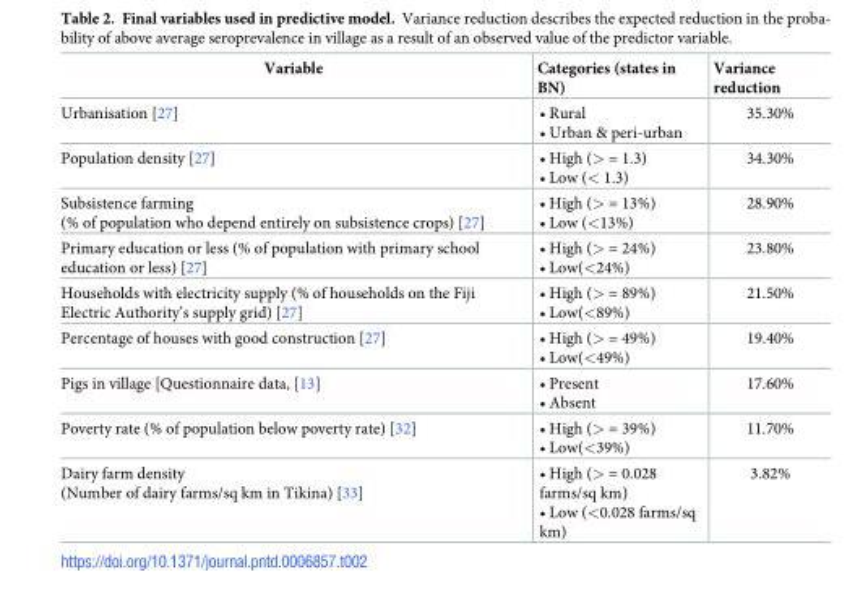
<table><thead><tr><td>Variable</td><td>Categories (states in BN)</td><td>Variance reduction</td></tr></thead><tbody><tr><td>Urbanisation [27]</td><td>• Rural • Urban &amp; peri-urban</td><td>35.30%</td></tr><tr><td>Population density [27]</td><td>• High (&gt; = 1.3) • Low (&lt; 1.3)</td><td>34.30%</td></tr><tr><td>Subsistence farming (% of population who depend entirely on subsistence crops) [27]</td><td>• High (&gt; = 13%) • Low (&lt;13%)</td><td>28.90%</td></tr><tr><td>Primary education or less (% of population with primary school education or less) [27]</td><td>• High (&gt; = 24%) • Low(&lt;24%)</td><td>23.80%</td></tr><tr><td>Households with electricity supply (% of households on the Fiji Electric Authority’s supply grid) [27]</td><td>• High (&gt; = 89%) • Low(&lt;89%)</td><td>21.50%</td></tr><tr><td>Percentage of houses with good construction [27]</td><td>• High (&gt; = 49%) • Low(&lt;49%)</td><td>19.40%</td></tr><tr><td>Pigs in village [Questionnaire data, [13]</td><td>• Present • Absent</td><td>17.60%</td></tr><tr><td>Poverty rate (% of population below poverty rate) [32]</td><td>• High (&gt; = 39%) • Low(&lt;39%)</td><td>11.70%</td></tr><tr><td>Dairy farm density (Number of dairy farms/sq km in Tikina) [33]</td><td>• High (&gt; = 0.028 farms/sq km) • Low (&lt;0.028 farms/sq km)</td><td>3.82%</td></tr></tbody></table>